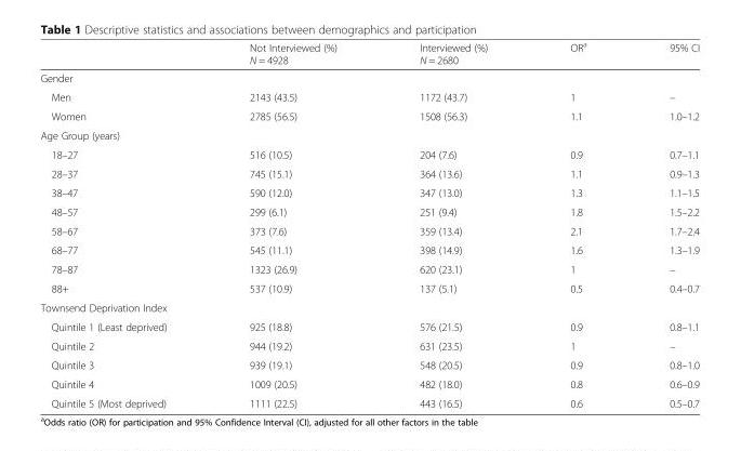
<table><thead><tr><td></td><td>Not Interviewed (%) N = 4928</td><td>Interviewed (%) N = 2680</td><td>OR<sup>a</sup></td><td>95% CI</td></tr></thead><tbody><tr><td colspan="5">Gender</td></tr><tr><td>Men</td><td>2143 (43.5)</td><td>1172 (43.7)</td><td>1</td><td>–</td></tr><tr><td>Women</td><td>2785 (56.5)</td><td>1508 (56.3)</td><td>1.1</td><td>1.0–1.2</td></tr><tr><td colspan="5">Age Group (years)</td></tr><tr><td>18–27</td><td>516 (10.5)</td><td>204 (7.6)</td><td>0.9</td><td>0.7–1.1</td></tr><tr><td>28–37</td><td>745 (15.1)</td><td>364 (13.6)</td><td>1.1</td><td>0.9–1.3</td></tr><tr><td>38–47</td><td>590 (12.0)</td><td>347 (13.0)</td><td>1.3</td><td>1.1–1.5</td></tr><tr><td>48–57</td><td>299 (6.1)</td><td>251 (9.4)</td><td>1.8</td><td>1.5–2.2</td></tr><tr><td>58–67</td><td>373 (7.6)</td><td>359 (13.4)</td><td>2.1</td><td>1.7–2.4</td></tr><tr><td>68–77</td><td>545 (11.1)</td><td>398 (14.9)</td><td>1.6</td><td>1.3–1.9</td></tr><tr><td>78–87</td><td>1323 (26.9)</td><td>620 (23.1)</td><td>1</td><td>–</td></tr><tr><td>88+</td><td>537 (10.9)</td><td>137 (5.1)</td><td>0.5</td><td>0.4–0.7</td></tr><tr><td colspan="5">Townsend Deprivation Index</td></tr><tr><td>Quintile 1 (Least deprived)</td><td>925 (18.8)</td><td>576 (21.5)</td><td>0.9</td><td>0.8–1.1</td></tr><tr><td>Quintile 2</td><td>944 (19.2)</td><td>631 (23.5)</td><td>1</td><td>–</td></tr><tr><td>Quintile 3</td><td>939 (19.1)</td><td>548 (20.5)</td><td>0.9</td><td>0.8–1.0</td></tr><tr><td>Quintile 4</td><td>1009 (20.5)</td><td>482 (18.0)</td><td>0.8</td><td>0.6–0.9</td></tr><tr><td>Quintile 5 (Most deprived)</td><td>1111 (22.5)</td><td>443 (16.5)</td><td>0.6</td><td>0.5–0.7</td></tr></tbody></table>